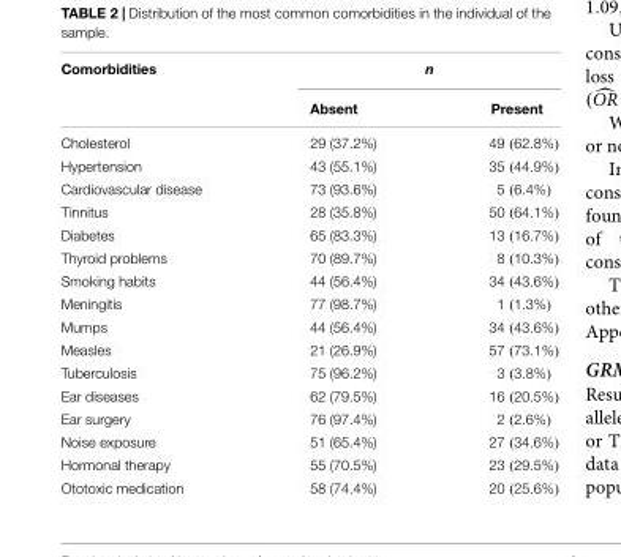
<table><thead><tr><td rowspan="2">Comorbidities</td><td colspan="2">n</td></tr><tr><td>Absent</td><td>Present</td></tr></thead><tbody><tr><td>Cholesterol</td><td>29 (37.2%)</td><td>49 (62.8%)</td></tr><tr><td>Hypertension</td><td>43 (55.1%)</td><td>35 (44.9%)</td></tr><tr><td>Cardiovascular disease</td><td>73 (93.6%)</td><td>5 (6.4%)</td></tr><tr><td>Tinnitus</td><td>28 (35.8%)</td><td>50 (64.1%)</td></tr><tr><td>Diabetes</td><td>65 (83.3%)</td><td>13 (16.7%)</td></tr><tr><td>Thyroid problems</td><td>70 (89.7%)</td><td>8 (10.3%)</td></tr><tr><td>Smoking habits</td><td>44 (56.4%)</td><td>34 (43.6%)</td></tr><tr><td>Meningitis</td><td>77 (98.7%)</td><td>1 (1.3%)</td></tr><tr><td>Mumps</td><td>44 (56.4%)</td><td>34 (43.6%)</td></tr><tr><td>Measles</td><td>21 (26.9%)</td><td>57 (73.1%)</td></tr><tr><td>Tuberculosis</td><td>75 (96.2%)</td><td>3 (3.8%)</td></tr><tr><td>Ear diseases</td><td>62 (79.5%)</td><td>16 (20.5%)</td></tr><tr><td>Ear surgery</td><td>76 (97.4%)</td><td>2 (2.6%)</td></tr><tr><td>Noise exposure</td><td>51 (65.4%)</td><td>27 (34.6%)</td></tr><tr><td>Hormonal therapy</td><td>55 (70.5%)</td><td>23 (29.5%)</td></tr><tr><td>Ototoxic medication</td><td>58 (74.4%)</td><td>20 (25.6%)</td></tr></tbody></table>